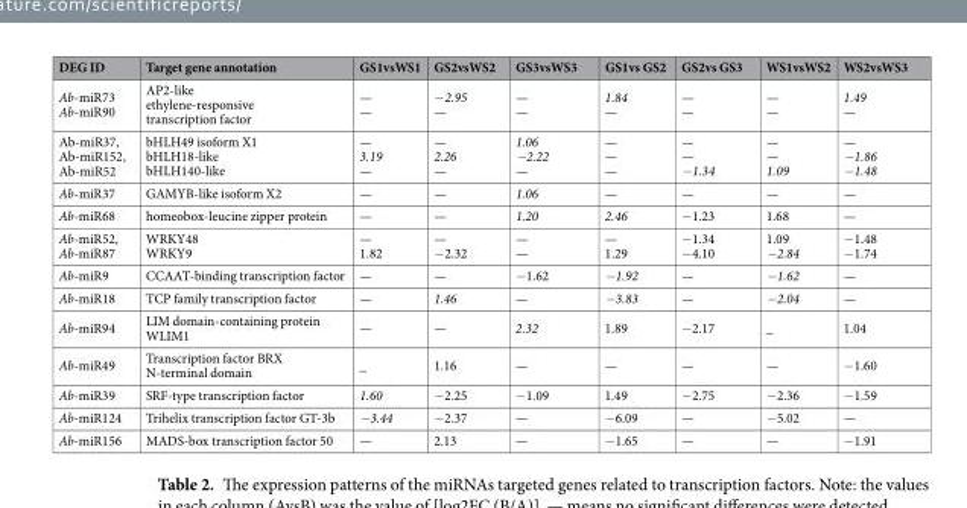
<table><thead><tr><td>DEG ID</td><td>Target gene annotation</td><td>GS1vsWS1</td><td>GS2vsWS2</td><td>GS3vsWS3</td><td>GS1vs GS2</td><td>GS2vs GS3</td><td>WS1vsWS2</td><td>WS2vsWS3</td></tr></thead><tbody><tr><td>Ab-miR73 Ab-miR90</td><td>AP2-like ethylene-responsive transcription factor</td><td>— —</td><td>−2.95 —</td><td>— —</td><td>1.84 —</td><td>— —</td><td>— —</td><td>1.49 —</td></tr><tr><td>Ab-miR37, Ab-miR152, Ab-miR52</td><td>bHLH49 isoform X1 bHLH18-like bHLH140-like</td><td>— 3.19 —</td><td>— 2.26 —</td><td>1.06 −2.22 —</td><td>— — —</td><td>— — −1.34</td><td>— — 1.09</td><td>— −1.86 −1.48</td></tr><tr><td>Ab-miR37</td><td>GAMYB-like isoform X2</td><td>—</td><td>—</td><td>1.06</td><td>—</td><td>—</td><td>—</td><td>—</td></tr><tr><td>Ab-miR68</td><td>homeobox-leucine zipper protein</td><td>—</td><td>—</td><td>1.20</td><td>2.46</td><td>−1.23</td><td>1.68</td><td>—</td></tr><tr><td>Ab-miR52, Ab-miR87</td><td>WRKY48 WRKY9</td><td>— 1.82</td><td>— −2.32</td><td>— —</td><td>— 1.29</td><td>−1.34 −4.10</td><td>1.09 −2.84</td><td>−1.48 −1.74</td></tr><tr><td>Ab-miR9</td><td>CCAAT-binding transcription factor</td><td>—</td><td>—</td><td>−1.62</td><td>−1.92</td><td>—</td><td>−1.62</td><td>—</td></tr><tr><td>Ab-miR18</td><td>TCP family transcription factor</td><td>—</td><td>1.46</td><td>—</td><td>−3.83</td><td>—</td><td>−2.04</td><td>—</td></tr><tr><td>Ab-miR94</td><td>LIM domain-containing protein WLIM1</td><td>—</td><td>—</td><td>2.32</td><td>1.89</td><td>−2.17</td><td>_</td><td>1.04</td></tr><tr><td>Ab-miR49</td><td>Transcription factor BRX N-terminal domain</td><td>_</td><td>1.16</td><td>—</td><td>—</td><td>—</td><td>—</td><td>−1.60</td></tr><tr><td>Ab-miR39</td><td>SRF-type transcription factor</td><td>1.60</td><td>−2.25</td><td>−1.09</td><td>1.49</td><td>−2.75</td><td>−2.36</td><td>−1.59</td></tr><tr><td>Ab-miR124</td><td>Trihelix transcription factor GT-3b</td><td>−3.44</td><td>−2.37</td><td>—</td><td>−6.09</td><td>—</td><td>−5.02</td><td>—</td></tr><tr><td>Ab-miR156</td><td>MADS-box transcription factor 50</td><td>—</td><td>2.13</td><td>—</td><td>−1.65</td><td>—</td><td>—</td><td>−1.91</td></tr></tbody></table>